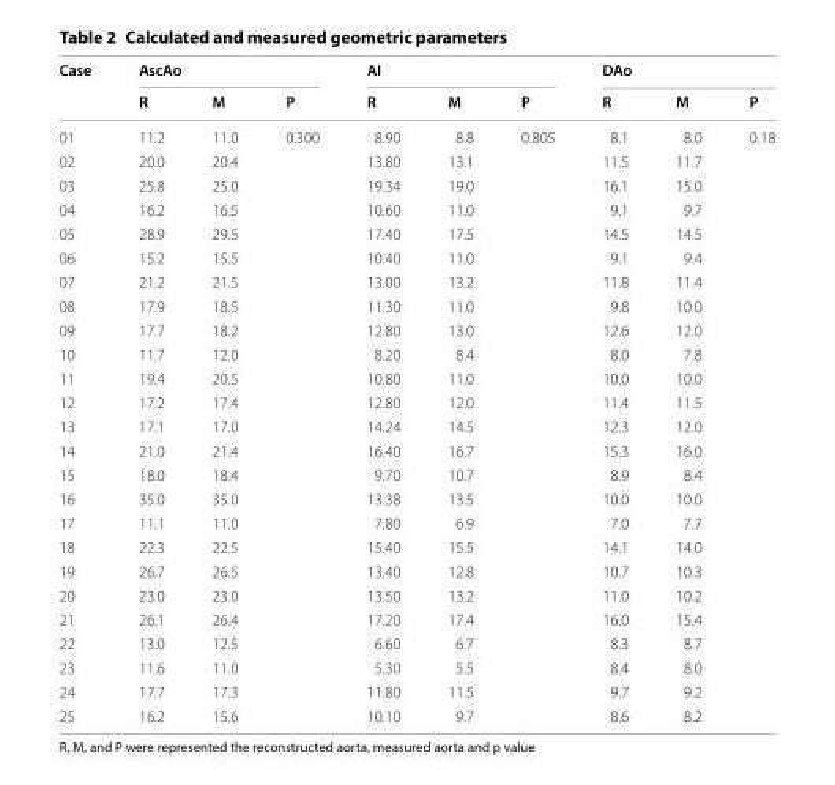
<table><thead><tr><td rowspan="2">Case</td><td colspan="3">AscAo</td><td colspan="3">AI</td><td colspan="3">DAo</td></tr><tr><td>R</td><td>M</td><td>P</td><td>R</td><td>M</td><td>P</td><td>R</td><td>M</td><td>P</td></tr></thead><tbody><tr><td>01</td><td>11.2</td><td>11.0</td><td>0.300</td><td>8.90</td><td>8.8</td><td>0.805</td><td>8.1</td><td>8.0</td><td>0.18</td></tr><tr><td>02</td><td>20.0</td><td>20.4</td><td></td><td>13.80</td><td>13.1</td><td></td><td>11.5</td><td>11.7</td><td></td></tr><tr><td>03</td><td>25.8</td><td>25.0</td><td></td><td>19.34</td><td>19.0</td><td></td><td>16.1</td><td>15.0</td><td></td></tr><tr><td>04</td><td>16.2</td><td>16.5</td><td></td><td>10.60</td><td>11.0</td><td></td><td>9.1</td><td>9.7</td><td></td></tr><tr><td>05</td><td>28.9</td><td>29.5</td><td></td><td>17.40</td><td>17.5</td><td></td><td>14.5</td><td>14.5</td><td></td></tr><tr><td>06</td><td>15.2</td><td>15.5</td><td></td><td>10.40</td><td>11.0</td><td></td><td>9.1</td><td>9.4</td><td></td></tr><tr><td>07</td><td>21.2</td><td>21.5</td><td></td><td>13.00</td><td>13.2</td><td></td><td>11.8</td><td>11.4</td><td></td></tr><tr><td>08</td><td>17.9</td><td>18.5</td><td></td><td>11.30</td><td>11.0</td><td></td><td>9.8</td><td>10.0</td><td></td></tr><tr><td>09</td><td>17.7</td><td>18.2</td><td></td><td>12.80</td><td>13.0</td><td></td><td>12.6</td><td>12.0</td><td></td></tr><tr><td>10</td><td>11.7</td><td>12.0</td><td></td><td>8.20</td><td>8.4</td><td></td><td>8.0</td><td>7.8</td><td></td></tr><tr><td>11</td><td>19.4</td><td>20.5</td><td></td><td>10.80</td><td>11.0</td><td></td><td>10.0</td><td>10.0</td><td></td></tr><tr><td>12</td><td>17.2</td><td>17.4</td><td></td><td>12.80</td><td>12.0</td><td></td><td>11.4</td><td>11.5</td><td></td></tr><tr><td>13</td><td>17.1</td><td>17.0</td><td></td><td>14.24</td><td>14.5</td><td></td><td>12.3</td><td>12.0</td><td></td></tr><tr><td>14</td><td>21.0</td><td>21.4</td><td></td><td>16.40</td><td>16.7</td><td></td><td>15.3</td><td>16.0</td><td></td></tr><tr><td>15</td><td>18.0</td><td>18.4</td><td></td><td>9.70</td><td>10.7</td><td></td><td>8.9</td><td>8.4</td><td></td></tr><tr><td>16</td><td>35.0</td><td>35.0</td><td></td><td>13.38</td><td>13.5</td><td></td><td>10.0</td><td>10.0</td><td></td></tr><tr><td>17</td><td>11.1</td><td>11.0</td><td></td><td>7.80</td><td>6.9</td><td></td><td>7.0</td><td>7.7</td><td></td></tr><tr><td>18</td><td>22.3</td><td>22.5</td><td></td><td>15.40</td><td>15.5</td><td></td><td>14.1</td><td>14.0</td><td></td></tr><tr><td>19</td><td>26.7</td><td>26.5</td><td></td><td>13.40</td><td>12.8</td><td></td><td>10.7</td><td>10.3</td><td></td></tr><tr><td>20</td><td>23.0</td><td>23.0</td><td></td><td>13.50</td><td>13.2</td><td></td><td>11.0</td><td>10.2</td><td></td></tr><tr><td>21</td><td>26.1</td><td>26.4</td><td></td><td>17.20</td><td>17.4</td><td></td><td>16.0</td><td>15.4</td><td></td></tr><tr><td>22</td><td>13.0</td><td>12.5</td><td></td><td>6.60</td><td>6.7</td><td></td><td>8.3</td><td>8.7</td><td></td></tr><tr><td>23</td><td>11.6</td><td>11.0</td><td></td><td>5.30</td><td>5.5</td><td></td><td>8.4</td><td>8.0</td><td></td></tr><tr><td>24</td><td>17.7</td><td>17.3</td><td></td><td>11.80</td><td>11.5</td><td></td><td>9.7</td><td>9.2</td><td></td></tr><tr><td>25</td><td>16.2</td><td>15.6</td><td></td><td>10.10</td><td>9.7</td><td></td><td>8.6</td><td>8.2</td><td></td></tr></tbody></table>